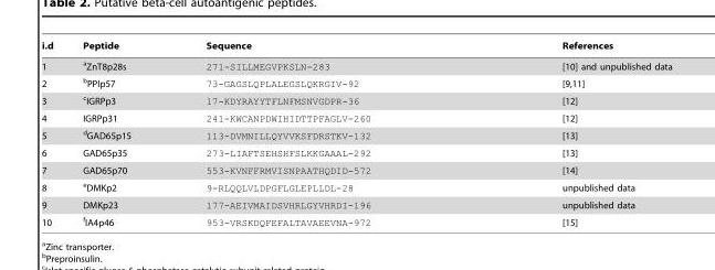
<table><thead><tr><td>i.d</td><td>Peptide</td><td>Sequence</td><td>References</td></tr></thead><tbody><tr><td>1</td><td>aZnT8p28s</td><td>271-SILLMEGVPKSLN-283</td><td>[10] and unpublished data</td></tr><tr><td>2</td><td>bPPIp57</td><td>73-GAGSLQPLALEGSLQKRGIV-92</td><td>[9,11]</td></tr><tr><td>3</td><td>cIGRPp3</td><td>17-KDYRAYYTFLNFMSNVGDPR-36</td><td>[12]</td></tr><tr><td>4</td><td>IGRPp31</td><td>241-KWCANPDWIHIDTTPFAGLV-260</td><td>[12]</td></tr><tr><td>5</td><td>dGAD65p15</td><td>113-DVMNILLQYVVKSFDRSTKV-132</td><td>[13]</td></tr><tr><td>6</td><td>GAD65p35</td><td>273-LIAFTSEHSHFSLKKGAAAL-292</td><td>[13]</td></tr><tr><td>7</td><td>GAD65p70</td><td>553-KVNFFRMVISNPAATHQDID-572</td><td>[14]</td></tr><tr><td>8</td><td>eDMKp2</td><td>9-RLQQLVLDPGFLGLEPLLDL-28</td><td>unpublished data</td></tr><tr><td>9</td><td>DMKp23</td><td>177-AEIVMAIDSVHRLGYVHRDI-196</td><td>unpublished data</td></tr><tr><td>10</td><td>fIA4p46</td><td>953-VRSKDQFEFALTAVAEEVNA-972</td><td>[15]</td></tr></tbody></table>